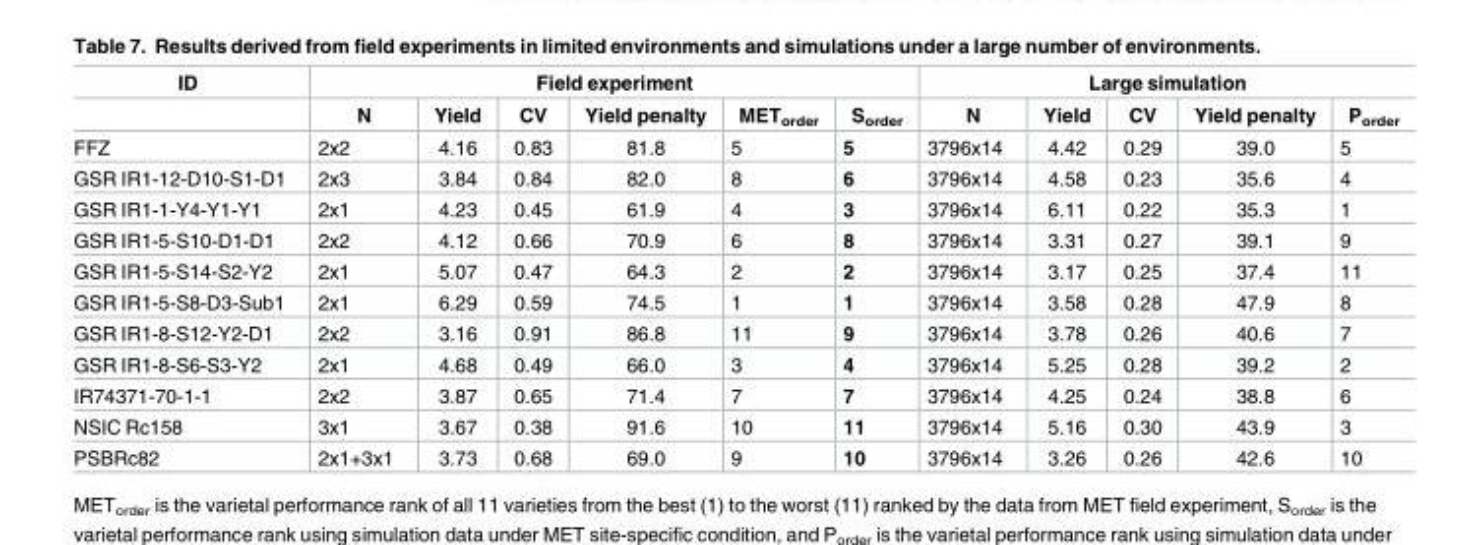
<table><thead><tr><td rowspan="2">ID</td><td colspan="6">Field experiment</td><td colspan="5">Large simulation</td></tr><tr><td>N</td><td>Yield</td><td>CV</td><td>Yield penalty</td><td>MET<sub>order</sub></td><td>S<sub>order</sub></td><td>N</td><td>Yield</td><td>CV</td><td>Yield penalty</td><td>P<sub>order</sub></td></tr></thead><tbody><tr><td>FFZ</td><td>2x2</td><td>4.16</td><td>0.83</td><td>81.8</td><td>5</td><td>5</td><td>3796x14</td><td>4.42</td><td>0.29</td><td>39.0</td><td>5</td></tr><tr><td>GSR IR1-12-D10-S1-D1</td><td>2x3</td><td>3.84</td><td>0.84</td><td>82.0</td><td>8</td><td>6</td><td>3796x14</td><td>4.58</td><td>0.23</td><td>35.6</td><td>4</td></tr><tr><td>GSR IR1-1-Y4-Y1-Y1</td><td>2x1</td><td>4.23</td><td>0.45</td><td>61.9</td><td>4</td><td>3</td><td>3796x14</td><td>6.11</td><td>0.22</td><td>35.3</td><td>1</td></tr><tr><td>GSR IR1-5-S10-D1-D1</td><td>2x2</td><td>4.12</td><td>0.66</td><td>70.9</td><td>6</td><td>8</td><td>3796x14</td><td>3.31</td><td>0.27</td><td>39.1</td><td>9</td></tr><tr><td>GSR IR1-5-S14-S2-Y2</td><td>2x1</td><td>5.07</td><td>0.47</td><td>64.3</td><td>2</td><td>2</td><td>3796x14</td><td>3.17</td><td>0.25</td><td>37.4</td><td>11</td></tr><tr><td>GSR IR1-5-S8-D3-Sub1</td><td>2x1</td><td>6.29</td><td>0.59</td><td>74.5</td><td>1</td><td>1</td><td>3796x14</td><td>3.58</td><td>0.28</td><td>47.9</td><td>8</td></tr><tr><td>GSR IR1-8-S12-Y2-D1</td><td>2x2</td><td>3.16</td><td>0.91</td><td>86.8</td><td>11</td><td>9</td><td>3796x14</td><td>3.78</td><td>0.26</td><td>40.6</td><td>7</td></tr><tr><td>GSR IR1-8-S6-S3-Y2</td><td>2x1</td><td>4.68</td><td>0.49</td><td>66.0</td><td>3</td><td>4</td><td>3796x14</td><td>5.25</td><td>0.28</td><td>39.2</td><td>2</td></tr><tr><td>IR74371-70-1-1</td><td>2x2</td><td>3.87</td><td>0.65</td><td>71.4</td><td>7</td><td>7</td><td>3796x14</td><td>4.25</td><td>0.24</td><td>38.8</td><td>6</td></tr><tr><td>NSIC Rc158</td><td>3x1</td><td>3.67</td><td>0.38</td><td>91.6</td><td>10</td><td>11</td><td>3796x14</td><td>5.16</td><td>0.30</td><td>43.9</td><td>3</td></tr><tr><td>PSBRc82</td><td>2x1+3x1</td><td>3.73</td><td>0.68</td><td>69.0</td><td>9</td><td>10</td><td>3796x14</td><td>3.26</td><td>0.26</td><td>42.6</td><td>10</td></tr></tbody></table>